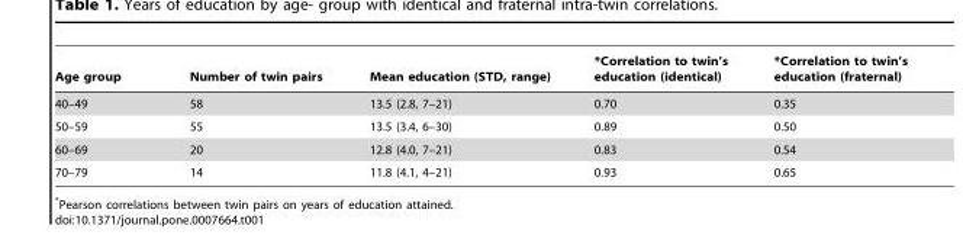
<table><thead><tr><td>Age group</td><td>Number of twin pairs</td><td>Mean education (STD, range)</td><td>*Correlation to twin’s education (identical)</td><td>*Correlation to twin’s education (fraternal)</td></tr></thead><tbody><tr><td>40–49</td><td>58</td><td>13.5 (2.8, 7–21)</td><td>0.70</td><td>0.35</td></tr><tr><td>50–59</td><td>55</td><td>13.5 (3.4, 6–30)</td><td>0.89</td><td>0.50</td></tr><tr><td>60–69</td><td>20</td><td>12.8 (4.0, 7–21)</td><td>0.83</td><td>0.54</td></tr><tr><td>70–79</td><td>14</td><td>11.8 (4.1, 4–21)</td><td>0.93</td><td>0.65</td></tr></tbody></table>